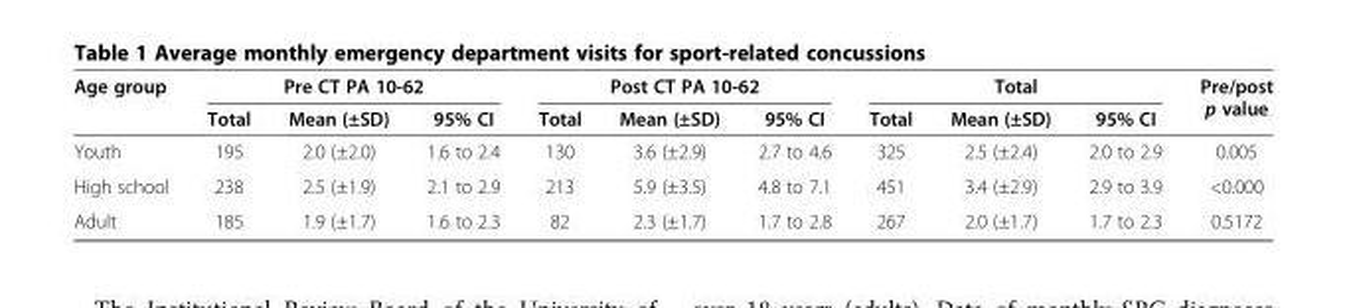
<table><thead><tr><td rowspan="2">Age group</td><td colspan="3">Pre CT PA 10-62</td><td colspan="3">Post CT PA 10-62</td><td colspan="3">Total</td><td rowspan="2">Pre/post p value</td></tr><tr><td>Total</td><td>Mean (±SD)</td><td>95% CI</td><td>Total</td><td>Mean (±SD)</td><td>95% CI</td><td>Total</td><td>Mean (±SD)</td><td>95% CI</td></tr></thead><tbody><tr><td>Youth</td><td>195</td><td>2.0 (±2.0)</td><td>1.6 to 2.4</td><td>130</td><td>3.6 (±2.9)</td><td>2.7 to 4.6</td><td>325</td><td>2.5 (±2.4)</td><td>2.0 to 2.9</td><td>0.005</td></tr><tr><td>High school</td><td>238</td><td>2.5 (±1.9)</td><td>2.1 to 2.9</td><td>213</td><td>5.9 (±3.5)</td><td>4.8 to 7.1</td><td>451</td><td>3.4 (±2.9)</td><td>2.9 to 3.9</td><td>&lt;0.000</td></tr><tr><td>Adult</td><td>185</td><td>1.9 (±1.7)</td><td>1.6 to 2.3</td><td>82</td><td>2.3 (±1.7)</td><td>1.7 to 2.8</td><td>267</td><td>2.0 (±1.7)</td><td>1.7 to 2.3</td><td>0.5172</td></tr></tbody></table>